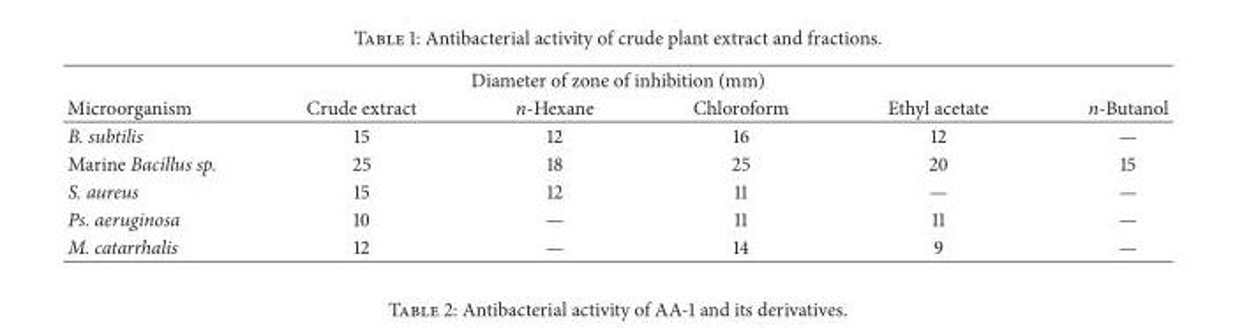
<table><thead><tr><td colspan="6">Diameter of zone of inhibition (mm)</td></tr><tr><td>Microorganism</td><td>Crude extract</td><td>n-Hexane</td><td>Chloroform</td><td>Ethyl acetate</td><td>n-Butanol</td></tr></thead><tbody><tr><td>B. subtilis</td><td>15</td><td>12</td><td>16</td><td>12</td><td>—</td></tr><tr><td>Marine Bacillus sp.</td><td>25</td><td>18</td><td>25</td><td>20</td><td>15</td></tr><tr><td>S. aureus</td><td>15</td><td>12</td><td>11</td><td>—</td><td>—</td></tr><tr><td>Ps. aeruginosa</td><td>10</td><td>—</td><td>11</td><td>11</td><td>—</td></tr><tr><td>M. catarrhalis</td><td>12</td><td>—</td><td>14</td><td>9</td><td>—</td></tr></tbody></table>